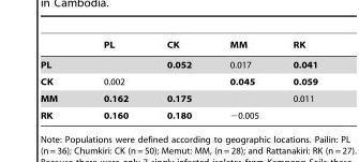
<table><thead><tr><td></td><td>PL</td><td>CK</td><td>MM</td><td>RK</td></tr></thead><tbody><tr><td>PL</td><td></td><td>0.052</td><td>0.017</td><td>0.041</td></tr><tr><td>CK</td><td>0.002</td><td></td><td>0.045</td><td>0.059</td></tr><tr><td>MM</td><td>0.162</td><td>0.175</td><td></td><td>0.011</td></tr><tr><td>RK</td><td>0.160</td><td>0.180</td><td>−0.005</td><td></td></tr></tbody></table>